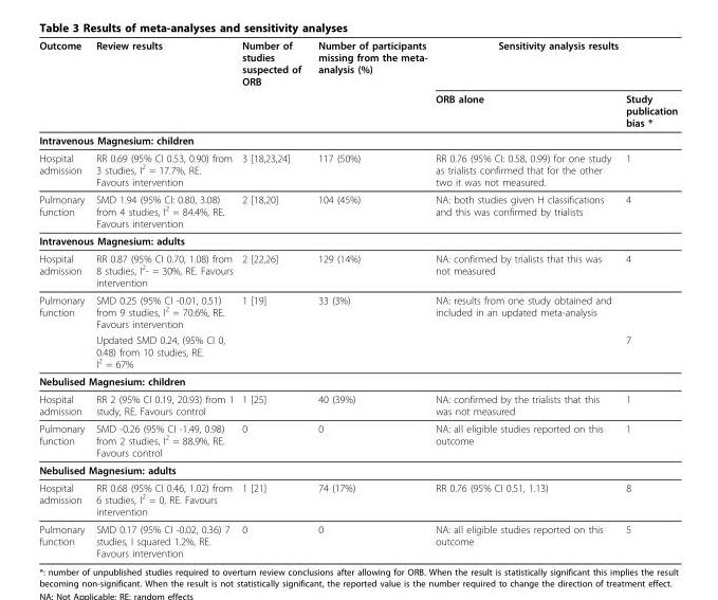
<table><thead><tr><td rowspan="2">Outcome</td><td rowspan="2">Review results</td><td rowspan="2">Number of studies suspected of ORB</td><td rowspan="2">Number of participants missing from the meta- analysis (%)</td><td colspan="2">Sensitivity analysis results</td></tr><tr><td>ORB alone</td><td>Study publication bias *</td></tr></thead><tbody><tr><td colspan="6">Intravenous Magnesium: children</td></tr><tr><td>Hospital admission</td><td>RR 0.69 (95% CI 0.53, 0.90) from 3 studies, I<sup>2</sup> = 17.7%, RE. Favours intervention</td><td>3 [18,23,24]</td><td>117 (50%)</td><td>RR 0.76 (95% CI: 0.58, 0.99) for one study as trialists confirmed that for the other two it was not measured.</td><td>1</td></tr><tr><td>Pulmonary function</td><td>SMD 1.94 (95% CI: 0.80, 3.08) from 4 studies, I<sup>2</sup> = 84.4%, RE. Favours intervention</td><td>2 [18,20]</td><td>104 (45%)</td><td>NA: both studies given H classifications and this was confirmed by trialists</td><td>4</td></tr><tr><td colspan="6">Intravenous Magnesium: adults</td></tr><tr><td>Hospital admission</td><td>RR 0.87 (95% CI 0.70, 1.08) from 8 studies, I<sup>2</sup>- = 30%, RE. Favours intervention</td><td>2 [22,26]</td><td>129 (14%)</td><td>NA: confirmed by trialists that this was not measured</td><td>4</td></tr><tr><td rowspan="2">Pulmonary function</td><td>SMD 0.25 (95% CI -0.01, 0.51) from 9 studies, I<sup>2</sup> = 70.6%, RE. Favours intervention</td><td>1 [19]</td><td>33 (3%)</td><td>NA: results from one study obtained and included in an updated meta-analysis</td><td></td></tr><tr><td>Updated SMD 0.24, (95% CI 0, 0.48) from 10 studies, RE. I<sup>2</sup> = 67%</td><td></td><td></td><td></td><td>7</td></tr><tr><td colspan="6">Nebulised Magnesium: children</td></tr><tr><td>Hospital admission</td><td>RR 2 (95% CI 0.19, 20.93) from 1 study, RE. Favours control</td><td>1 [25]</td><td>40 (39%)</td><td>NA: confirmed by the trialists that this was not measured</td><td>1</td></tr><tr><td>Pulmonary function</td><td>SMD -0.26 (95% CI -1.49, 0.98) from 2 studies, I<sup>2</sup> = 88.9%, RE. Favours control</td><td>0</td><td>0</td><td>NA: all eligible studies reported on this outcome</td><td>1</td></tr><tr><td colspan="6">Nebulised Magnesium: adults</td></tr><tr><td>Hospital admission</td><td>RR 0.68 (95% CI 0.46, 1.02) from 6 studies, I<sup>2</sup> = 0, RE. Favours intervention</td><td>1 [21]</td><td>74 (17%)</td><td>RR 0.76 (95% CI 0.51, 1.13)</td><td>8</td></tr><tr><td>Pulmonary function</td><td>SMD 0.17 (95% CI -0.02, 0.36) 7 studies, I squared 1.2%, RE. Favours intervention</td><td>0</td><td>0</td><td>NA: all eligible studies reported on this outcome</td><td>5</td></tr></tbody></table>